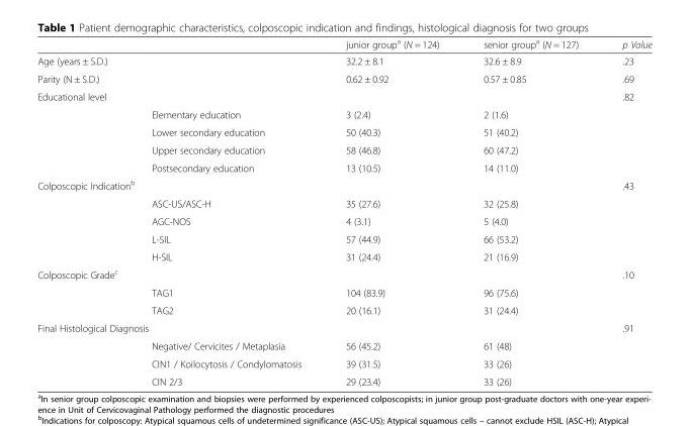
<table><thead><tr><td></td><td></td><td>junior group<sup>a</sup> (N = 124)</td><td>senior group<sup>a</sup> (N = 127)</td><td>p Value</td></tr></thead><tbody><tr><td>Age (years ± S.D.)</td><td></td><td>32.2 ± 8.1</td><td>32.6 ± 8.9</td><td>.23</td></tr><tr><td>Parity (N ± S.D.)</td><td></td><td>0.62 ± 0.92</td><td>0.57 ± 0.85</td><td>.69</td></tr><tr><td rowspan="5">Educational level</td><td></td><td></td><td></td><td>.82</td></tr><tr><td>Elementary education</td><td>3 (2.4)</td><td>2 (1.6)</td><td></td></tr><tr><td>Lower secondary education</td><td>50 (40.3)</td><td>51 (40.2)</td><td></td></tr><tr><td>Upper secondary education</td><td>58 (46.8)</td><td>60 (47.2)</td><td></td></tr><tr><td>Postsecondary education</td><td>13 (10.5)</td><td>14 (11.0)</td><td></td></tr><tr><td colspan="2">Colposcopic Indication<sup>b</sup></td><td></td><td></td><td>.43</td></tr><tr><td></td><td>ASC-US/ASC-H</td><td>35 (27.6)</td><td>32 (25.8)</td><td></td></tr><tr><td></td><td>AGC-NOS</td><td>4 (3.1)</td><td>5 (4.0)</td><td></td></tr><tr><td></td><td>L-SIL</td><td>57 (44.9)</td><td>66 (53.2)</td><td></td></tr><tr><td></td><td>H-SIL</td><td>31 (24.4)</td><td>21 (16.9)</td><td></td></tr><tr><td colspan="2">Colposcopic Grade<sup>c</sup></td><td></td><td></td><td>.10</td></tr><tr><td></td><td>TAG1</td><td>104 (83.9)</td><td>96 (75.6)</td><td></td></tr><tr><td></td><td>TAG2</td><td>20 (16.1)</td><td>31 (24.4)</td><td></td></tr><tr><td colspan="2">Final Histological Diagnosis</td><td></td><td></td><td>.91</td></tr><tr><td></td><td>Negative/ Cervicites / Metaplasia</td><td>56 (45.2)</td><td>61 (48)</td><td></td></tr><tr><td></td><td>CIN1 / Koilocytosis / Condylomatosis</td><td>39 (31.5)</td><td>33 (26)</td><td></td></tr><tr><td></td><td>CIN 2/3</td><td>29 (23.4)</td><td>33 (26)</td><td></td></tr></tbody></table>